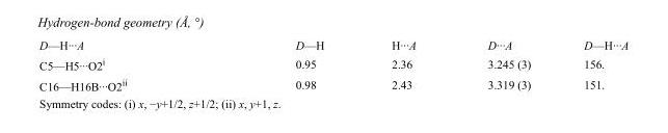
<table><tbody><tr><td>D—H···A</td><td>D—H</td><td>H···A</td><td>D···A</td><td>D—H···A</td></tr><tr><td>C5—H5···O2<sup>i</sup></td><td>0.95</td><td>2.36</td><td>3.245 (3)</td><td>156.</td></tr><tr><td>C16—H16B···O2<sup>ii</sup></td><td>0.98</td><td>2.43</td><td>3.319 (3)</td><td>151.</td></tr></tbody></table>